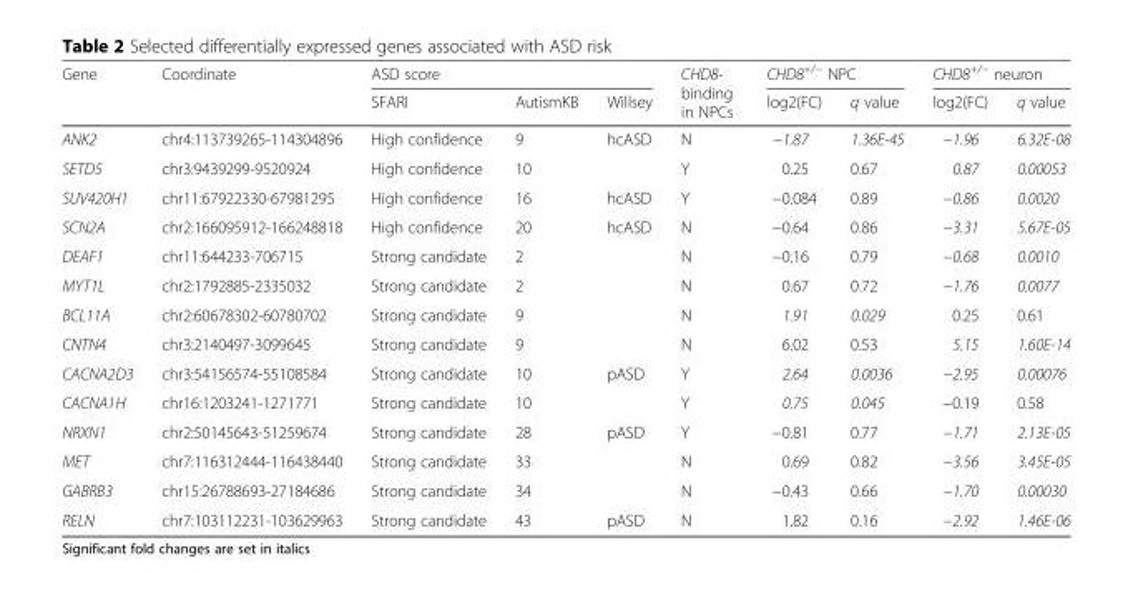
<table><thead><tr><td rowspan="2">Gene</td><td rowspan="2">Coordinate</td><td colspan="3">ASD score</td><td rowspan="2">CHD8- binding in NPCs</td><td colspan="2">CHD8<sup>+/−</sup> NPC</td><td colspan="2">CHD8<sup>+/−</sup> neuron</td></tr><tr><td>SFARI</td><td>AutismKB</td><td>Willsey</td><td>log2(FC)</td><td>q value</td><td>log2(FC)</td><td>q value</td></tr></thead><tbody><tr><td>ANK2</td><td>chr4:113739265-114304896</td><td>High confidence</td><td>9</td><td>hcASD</td><td>N</td><td>−1.87</td><td>1.36E-45</td><td>−1.96</td><td>6.32E-08</td></tr><tr><td>SETD5</td><td>chr3:9439299-9520924</td><td>High confidence</td><td>10</td><td></td><td>Y</td><td>0.25</td><td>0.67</td><td>0.87</td><td>0.00053</td></tr><tr><td>SUV420H1</td><td>chr11:67922330-67981295</td><td>High confidence</td><td>16</td><td>hcASD</td><td>Y</td><td>−0.084</td><td>0.89</td><td>−0.86</td><td>0.0020</td></tr><tr><td>SCN2A</td><td>chr2:166095912-166248818</td><td>High confidence</td><td>20</td><td>hcASD</td><td>N</td><td>−0.64</td><td>0.86</td><td>−3.31</td><td>5.67E-05</td></tr><tr><td>DEAF1</td><td>chr11:644233-706715</td><td>Strong candidate</td><td>2</td><td></td><td>N</td><td>−0.16</td><td>0.79</td><td>−0.68</td><td>0.0010</td></tr><tr><td>MYT1L</td><td>chr2:1792885-2335032</td><td>Strong candidate</td><td>2</td><td></td><td>N</td><td>0.67</td><td>0.72</td><td>−1.76</td><td>0.0077</td></tr><tr><td>BCL11A</td><td>chr2:60678302-60780702</td><td>Strong candidate</td><td>9</td><td></td><td>N</td><td>1.91</td><td>0.029</td><td>0.25</td><td>0.61</td></tr><tr><td>CNTN4</td><td>chr3:2140497-3099645</td><td>Strong candidate</td><td>9</td><td></td><td>N</td><td>6.02</td><td>0.53</td><td>5.15</td><td>1.60E-14</td></tr><tr><td>CACNA2D3</td><td>chr3:54156574-55108584</td><td>Strong candidate</td><td>10</td><td>pASD</td><td>Y</td><td>2.64</td><td>0.0036</td><td>−2.95</td><td>0.00076</td></tr><tr><td>CACNA1H</td><td>chr16:1203241-1271771</td><td>Strong candidate</td><td>10</td><td></td><td>Y</td><td>0.75</td><td>0.045</td><td>−0.19</td><td>0.58</td></tr><tr><td>NRXN1</td><td>chr2:50145643-51259674</td><td>Strong candidate</td><td>28</td><td>pASD</td><td>Y</td><td>−0.81</td><td>0.77</td><td>−1.71</td><td>2.13E-05</td></tr><tr><td>MET</td><td>chr7:116312444-116438440</td><td>Strong candidate</td><td>33</td><td></td><td>N</td><td>0.69</td><td>0.82</td><td>−3.56</td><td>3.45E-05</td></tr><tr><td>GABRB3</td><td>chr15:26788693-27184686</td><td>Strong candidate</td><td>34</td><td></td><td>N</td><td>−0.43</td><td>0.66</td><td>−1.70</td><td>0.00030</td></tr><tr><td>RELN</td><td>chr7:103112231-103629963</td><td>Strong candidate</td><td>43</td><td>pASD</td><td>N</td><td>1.82</td><td>0.16</td><td>−2.92</td><td>1.46E-06</td></tr></tbody></table>